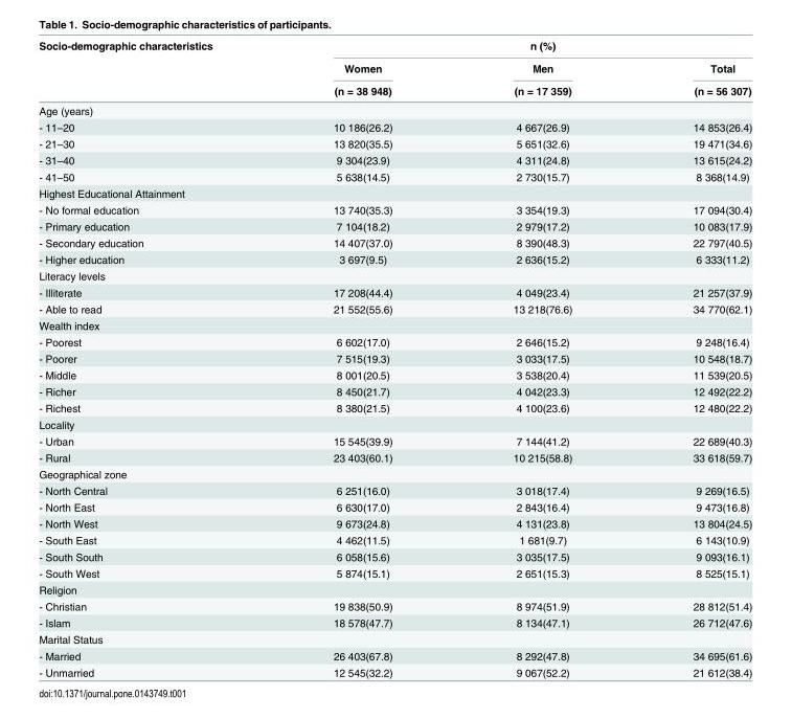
<table><thead><tr><td rowspan="3">Socio-demographic characteristics</td><td colspan="3">n (%)</td></tr><tr><td rowspan="2">Women (n = 38 948)</td><td rowspan="2">Men (n = 17 359)</td><td rowspan="2">Total (n = 56 307)</td></tr><tr></tr></thead><tbody><tr><td colspan="4">Age (years)</td></tr><tr><td>- 11–20</td><td>10 186(26.2)</td><td>4 667(26.9)</td><td>14 853(26.4)</td></tr><tr><td>- 21–30</td><td>13 820(35.5)</td><td>5 651(32.6)</td><td>19 471(34.6)</td></tr><tr><td>- 31–40</td><td>9 304(23.9)</td><td>4 311(24.8)</td><td>13 615(24.2)</td></tr><tr><td>- 41–50</td><td>5 638(14.5)</td><td>2 730(15.7)</td><td>8 368(14.9)</td></tr><tr><td colspan="4">Highest Educational Attainment</td></tr><tr><td>- No formal education</td><td>13 740(35.3)</td><td>3 354(19.3)</td><td>17 094(30.4)</td></tr><tr><td>- Primary education</td><td>7 104(18.2)</td><td>2 979(17.2)</td><td>10 083(17.9)</td></tr><tr><td>- Secondary education</td><td>14 407(37.0)</td><td>8 390(48.3)</td><td>22 797(40.5)</td></tr><tr><td>- Higher education</td><td>3 697(9.5)</td><td>2 636(15.2)</td><td>6 333(11.2)</td></tr><tr><td colspan="4">Literacy levels</td></tr><tr><td>- Illiterate</td><td>17 208(44.4)</td><td>4 049(23.4)</td><td>21 257(37.9)</td></tr><tr><td>- Able to read</td><td>21 552(55.6)</td><td>13 218(76.6)</td><td>34 770(62.1)</td></tr><tr><td colspan="4">Wealth index</td></tr><tr><td>- Poorest</td><td>6 602(17.0)</td><td>2 646(15.2)</td><td>9 248(16.4)</td></tr><tr><td>- Poorer</td><td>7 515(19.3)</td><td>3 033(17.5)</td><td>10 548(18.7)</td></tr><tr><td>- Middle</td><td>8 001(20.5)</td><td>3 538(20.4)</td><td>11 539(20.5)</td></tr><tr><td>- Richer</td><td>8 450(21.7)</td><td>4 042(23.3)</td><td>12 492(22.2)</td></tr><tr><td>- Richest</td><td>8 380(21.5)</td><td>4 100(23.6)</td><td>12 480(22.2)</td></tr><tr><td colspan="4">Locality</td></tr><tr><td>- Urban</td><td>15 545(39.9)</td><td>7 144(41.2)</td><td>22 689(40.3)</td></tr><tr><td>- Rural</td><td>23 403(60.1)</td><td>10 215(58.8)</td><td>33 618(59.7)</td></tr><tr><td colspan="4">Geographical zone</td></tr><tr><td>- North Central</td><td>6 251(16.0)</td><td>3 018(17.4)</td><td>9 269(16.5)</td></tr><tr><td>- North East</td><td>6 630(17.0)</td><td>2 843(16.4)</td><td>9 473(16.8)</td></tr><tr><td>- North West</td><td>9 673(24.8)</td><td>4 131(23.8)</td><td>13 804(24.5)</td></tr><tr><td>- South East</td><td>4 462(11.5)</td><td>1 681(9.7)</td><td>6 143(10.9)</td></tr><tr><td>- South South</td><td>6 058(15.6)</td><td>3 035(17.5)</td><td>9 093(16.1)</td></tr><tr><td>- South West</td><td>5 874(15.1)</td><td>2 651(15.3)</td><td>8 525(15.1)</td></tr><tr><td colspan="4">Religion</td></tr><tr><td>- Christian</td><td>19 838(50.9)</td><td>8 974(51.9)</td><td>28 812(51.4)</td></tr><tr><td>- Islam</td><td>18 578(47.7)</td><td>8 134(47.1)</td><td>26 712(47.6)</td></tr><tr><td colspan="4">Marital Status</td></tr><tr><td>- Married</td><td>26 403(67.8)</td><td>8 292(47.8)</td><td>34 695(61.6)</td></tr><tr><td>- Unmarried</td><td>12 545(32.2)</td><td>9 067(52.2)</td><td>21 612(38.4)</td></tr></tbody></table>